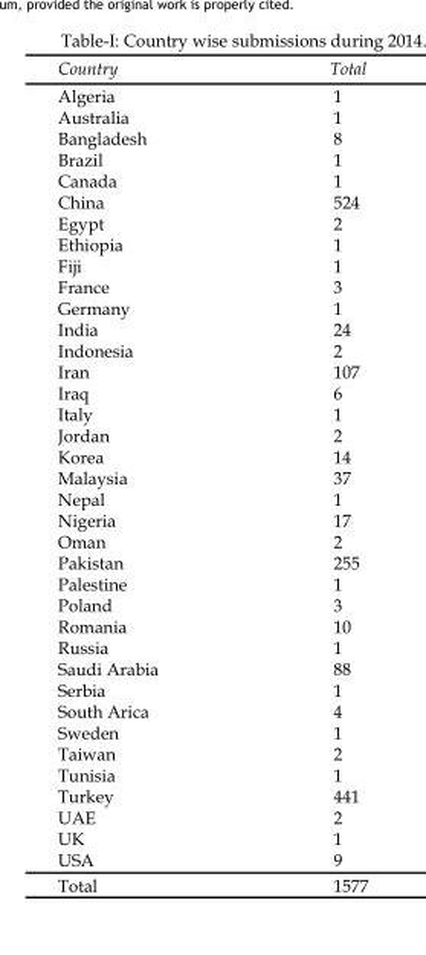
<table><thead><tr><td>Country</td><td>Total</td></tr></thead><tbody><tr><td>Algeria</td><td>1</td></tr><tr><td>Australia</td><td>1</td></tr><tr><td>Bangladesh</td><td>8</td></tr><tr><td>Brazil</td><td>1</td></tr><tr><td>Canada</td><td>1</td></tr><tr><td>China</td><td>524</td></tr><tr><td>Egypt</td><td>2</td></tr><tr><td>Ethiopia</td><td>1</td></tr><tr><td>Fiji</td><td>1</td></tr><tr><td>France</td><td>3</td></tr><tr><td>Germany</td><td>1</td></tr><tr><td>India</td><td>24</td></tr><tr><td>Indonesia</td><td>2</td></tr><tr><td>Iran</td><td>107</td></tr><tr><td>Iraq</td><td>6</td></tr><tr><td>Italy</td><td>1</td></tr><tr><td>Jordan</td><td>2</td></tr><tr><td>Korea</td><td>14</td></tr><tr><td>Malaysia</td><td>37</td></tr><tr><td>Nepal</td><td>1</td></tr><tr><td>Nigeria</td><td>17</td></tr><tr><td>Oman</td><td>2</td></tr><tr><td>Pakistan</td><td>255</td></tr><tr><td>Palestine</td><td>1</td></tr><tr><td>Poland</td><td>3</td></tr><tr><td>Romania</td><td>10</td></tr><tr><td>Russia</td><td>1</td></tr><tr><td>Saudi Arabia</td><td>88</td></tr><tr><td>Serbia</td><td>1</td></tr><tr><td>South Arica</td><td>4</td></tr><tr><td>Sweden</td><td>1</td></tr><tr><td>Taiwan</td><td>2</td></tr><tr><td>Tunisia</td><td>1</td></tr><tr><td>Turkey</td><td>441</td></tr><tr><td>UAE</td><td>2</td></tr><tr><td>UK</td><td>1</td></tr><tr><td>USA</td><td>9</td></tr><tr><td>Total</td><td>1577</td></tr></tbody></table>